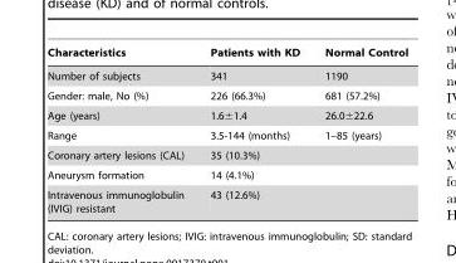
<table><thead><tr><td>Characteristics</td><td>Patients with KD</td><td>Normal Control</td></tr></thead><tbody><tr><td>Number of subjects</td><td>341</td><td>1190</td></tr><tr><td>Gender: male, No (%)</td><td>226 (66.3%)</td><td>681 (57.2%)</td></tr><tr><td>Age (years)</td><td>1.6±1.4</td><td>26.0±22.6</td></tr><tr><td>Range</td><td>3.5-144 (months)</td><td>1–85 (years)</td></tr><tr><td>Coronary artery lesions (CAL)</td><td>35 (10.3%)</td><td></td></tr><tr><td>Aneurysm formation</td><td>14 (4.1%)</td><td></td></tr><tr><td>Intravenous immunoglobulin (IVIG) resistant</td><td>43 (12.6%)</td><td></td></tr></tbody></table>